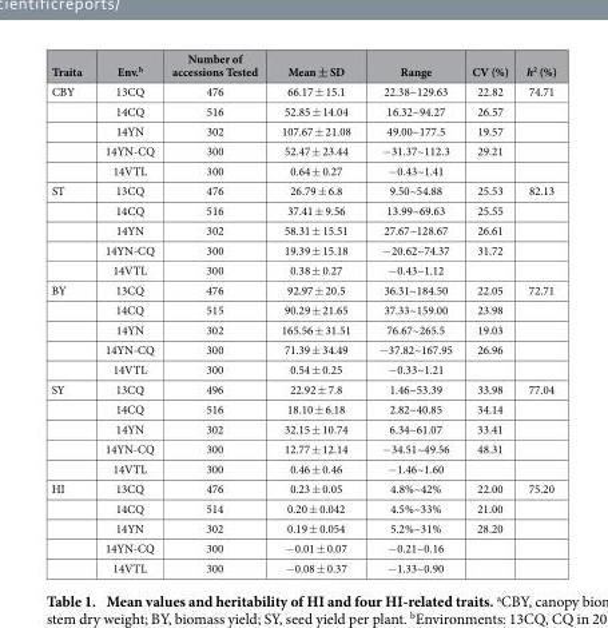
<table><thead><tr><td>Traita</td><td>Env.<sup>b</sup></td><td>Number of accessions Tested</td><td>Mean ± SD</td><td>Range</td><td>CV (%)</td><td>h<sup>2</sup> (%)</td></tr></thead><tbody><tr><td rowspan="5">CBY</td><td>13CQ</td><td>476</td><td>66.17 ± 15.1</td><td>22.38~129.63</td><td>22.82</td><td>74.71</td></tr><tr><td>14CQ</td><td>516</td><td>52.85 ± 14.04</td><td>16.32~94.27</td><td>26.57</td><td></td></tr><tr><td>14YN</td><td>302</td><td>107.67 ± 21.08</td><td>49.00~177.5</td><td>19.57</td><td></td></tr><tr><td>14YN-CQ</td><td>300</td><td>52.47 ± 23.44</td><td>− 31.37~112.3</td><td>29.21</td><td></td></tr><tr><td>14VTL</td><td>300</td><td>0.64 ± 0.27</td><td>− 0.43~1.41</td><td></td><td></td></tr><tr><td rowspan="5">ST</td><td>13CQ</td><td>476</td><td>26.79 ± 6.8</td><td>9.50~54.88</td><td>25.53</td><td>82.13</td></tr><tr><td>14CQ</td><td>516</td><td>37.41 ± 9.56</td><td>13.99~69.63</td><td>25.55</td><td></td></tr><tr><td>14YN</td><td>302</td><td>58.31 ± 15.51</td><td>27.67~128.67</td><td>26.61</td><td></td></tr><tr><td>14YN-CQ</td><td>300</td><td>19.39 ± 15.18</td><td>− 20.62~74.37</td><td>31.72</td><td></td></tr><tr><td>14VTL</td><td>300</td><td>0.38 ± 0.27</td><td>− 0.43~1.12</td><td></td><td></td></tr><tr><td rowspan="5">BY</td><td>13CQ</td><td>476</td><td>92.97 ± 20.5</td><td>36.31~184.50</td><td>22.05</td><td>72.71</td></tr><tr><td>14CQ</td><td>515</td><td>90.29 ± 21.65</td><td>37.33~159.00</td><td>23.98</td><td></td></tr><tr><td>14YN</td><td>302</td><td>165.56 ± 31.51</td><td>76.67~265.5</td><td>19.03</td><td></td></tr><tr><td>14YN-CQ</td><td>300</td><td>71.39 ± 34.49</td><td>− 37.82~167.95</td><td>26.96</td><td></td></tr><tr><td>14VTL</td><td>300</td><td>0.54 ± 0.25</td><td>− 0.33~1.21</td><td></td><td></td></tr><tr><td rowspan="5">SY</td><td>13CQ</td><td>496</td><td>22.92 ± 7.8</td><td>1.46~53.39</td><td>33.98</td><td>77.04</td></tr><tr><td>14CQ</td><td>516</td><td>18.10 ± 6.18</td><td>2.82~40.85</td><td>34.14</td><td></td></tr><tr><td>14YN</td><td>302</td><td>32.15 ± 10.74</td><td>6.34~61.07</td><td>33.41</td><td></td></tr><tr><td>14YN-CQ</td><td>300</td><td>12.77 ± 12.14</td><td>− 34.51~49.56</td><td>48.31</td><td></td></tr><tr><td>14VTL</td><td>300</td><td>0.46 ± 0.46</td><td>− 1.46~1.60</td><td></td><td></td></tr><tr><td rowspan="5">HI</td><td>13CQ</td><td>476</td><td>0.23 ± 0.05</td><td>4.8%~42%</td><td>22.00</td><td>75.20</td></tr><tr><td>14CQ</td><td>514</td><td>0.20 ± 0.042</td><td>4.5%~33%</td><td>21.00</td><td></td></tr><tr><td>14YN</td><td>302</td><td>0.19 ± 0.054</td><td>5.2%~31%</td><td>28.20</td><td></td></tr><tr><td>14YN-CQ</td><td>300</td><td>− 0.01 ± 0.07</td><td>− 0.21~0.16</td><td></td><td></td></tr><tr><td>14VTL</td><td>300</td><td>− 0.08 ± 0.37</td><td>− 1.33~0.90</td><td></td><td></td></tr></tbody></table>